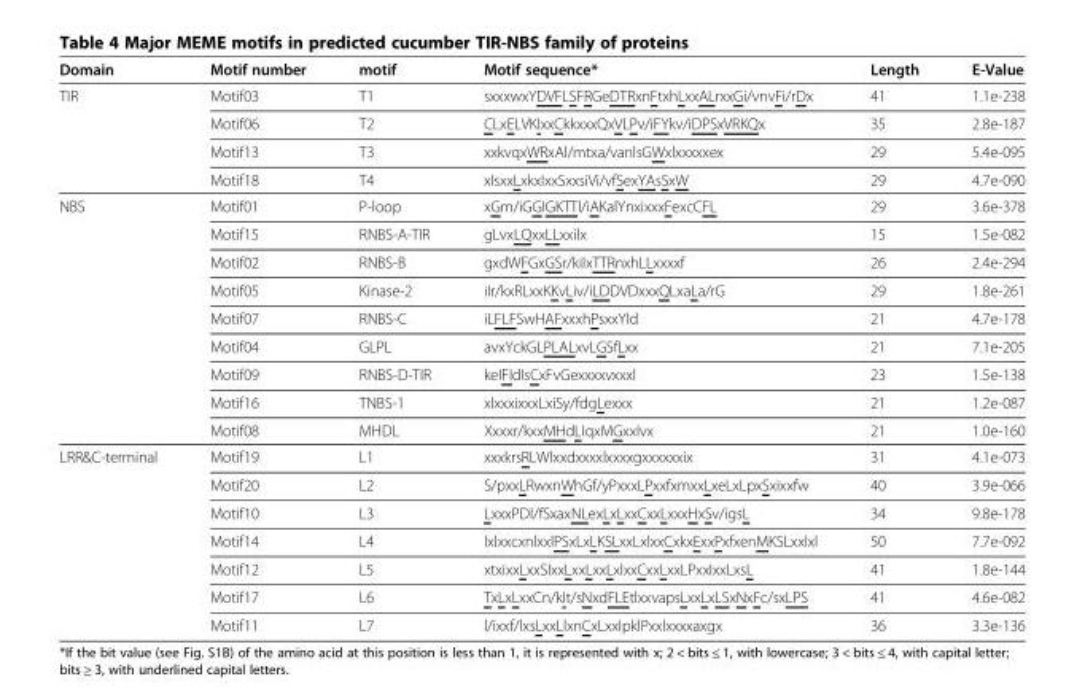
<table><thead><tr><td>Domain</td><td>Motif number</td><td>motif</td><td>Motif sequence*</td><td>Length</td><td>E-Value</td></tr></thead><tbody><tr><td rowspan="4">TIR</td><td>Motif03</td><td>T1</td><td>sxxxwxYDVFLSFRGeDTRxnFtxhLxxALrxxGi/vnvFi/rDx</td><td>41</td><td>1.1e-238</td></tr><tr><td>Motif06</td><td>T2</td><td>CLxELVKIxxCkkxxxQxVLPv/iFYkv/iDPSxVRKQx</td><td>35</td><td>2.8e-187</td></tr><tr><td>Motif13</td><td>T3</td><td>xxkvqxWRxAl/mtxa/vanlsGWxlxxxxxex</td><td>29</td><td>5.4e-095</td></tr><tr><td>Motif18</td><td>T4</td><td>xIsxxLxkxIxxSxxsiVi/vfSexYAsSxW</td><td>29</td><td>4.7e-090</td></tr><tr><td rowspan="9">NBS</td><td>Motif01</td><td>P-loop</td><td>xGm/iGGIGKTTl/iAKalYnxixxxFexcCFL</td><td>29</td><td>3.6e-378</td></tr><tr><td>Motif15</td><td>RNBS-A-TIR</td><td>gLvxLQxxLLxxilx</td><td>15</td><td>1.5e-082</td></tr><tr><td>Motif02</td><td>RNBS-B</td><td>gxdWFGxGSr/kiIxTTRnxhLLxxxxf</td><td>26</td><td>2.4e-294</td></tr><tr><td>Motif05</td><td>Kinase-2</td><td>iIr/kxRLxxKKvLiv/iLDDVDxxxQLxaLa/rG</td><td>29</td><td>1.8e-261</td></tr><tr><td>Motif07</td><td>RNBS-C</td><td>iLFLFSwHAFxxxhPsxxYld</td><td>21</td><td>4.7e-178</td></tr><tr><td>Motif04</td><td>GLPL</td><td>avxYckGLPLALxvLGSfLxx</td><td>21</td><td>7.1e-205</td></tr><tr><td>Motif09</td><td>RNBS-D-TIR</td><td>keIFIdIsCxFvGexxxxvxxxl</td><td>23</td><td>1.5e-138</td></tr><tr><td>Motif16</td><td>TNBS-1</td><td>xlxxxixxxLxiSy/fdgLexxx</td><td>21</td><td>1.2e-087</td></tr><tr><td>Motif08</td><td>MHDL</td><td>Xxxxr/kxxMHdLIqxMGxxIvx</td><td>21</td><td>1.0e-160</td></tr><tr><td rowspan="7">LRR&amp;C-terminal</td><td>Motif19</td><td>L1</td><td>xxxkrsRLWlxxdxxxxlxxxxgxxxxxxix</td><td>31</td><td>4.1e-073</td></tr><tr><td>Motif20</td><td>L2</td><td>S/pxxLRwxnWhGf/yPxxxLPxxfxmxxLxeLxLpxSxixxfw</td><td>40</td><td>3.9e-066</td></tr><tr><td>Motif10</td><td>L3</td><td>LxxxPDl/fSxaxNLexLxLxxCxxLxxxHxSv/igsL</td><td>34</td><td>9.8e-178</td></tr><tr><td>Motif14</td><td>L4</td><td>lxlxxcxnlxxlPSxLxLKSLxxLxlxxCxkxExxPxfxenMKSLxxlxl</td><td>50</td><td>7.7e-092</td></tr><tr><td>Motif12</td><td>L5</td><td>xtxixxLxxSIxxLxxLxxLxlxxCxxLxxLPxxIxxLxsL</td><td>41</td><td>1.8e-144</td></tr><tr><td>Motif17</td><td>L6</td><td>TxLxLxxCn/kIt/sNxdFLEtlxxvapsLxxLxLSxNxFc/sxLPS</td><td>41</td><td>4.6e-082</td></tr><tr><td>Motif11</td><td>L7</td><td>l/ixxf/lxsLxxLlxnCxLxxIpklPxxlxxxxaxgx</td><td>36</td><td>3.3e-136</td></tr></tbody></table>